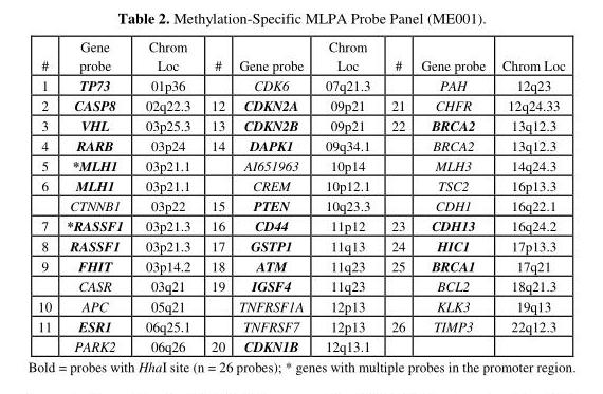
<table><thead><tr><td>#</td><td>Gene probe</td><td>Chrom Loc</td><td>#</td><td>Gene probe</td><td>Chrom Loc</td><td>#</td><td>Gene probe</td><td>Chrom Loc</td></tr></thead><tbody><tr><td>1</td><td>TP73</td><td>01p36</td><td></td><td>CDK6</td><td>07q21.3</td><td></td><td>PAH</td><td>12q23</td></tr><tr><td>2</td><td>CASP8</td><td>02q22.3</td><td>12</td><td>CDKN2A</td><td>09p21</td><td>21</td><td>CHFR</td><td>12q24.33</td></tr><tr><td>3</td><td>VHL</td><td>03p25.3</td><td>13</td><td>CDKN2B</td><td>09p21</td><td>22</td><td>BRCA2</td><td>13q12.3</td></tr><tr><td>4</td><td>RARB</td><td>03p24</td><td>14</td><td>DAPK1</td><td>09q34.1</td><td></td><td>BRCA2</td><td>13q12.3</td></tr><tr><td>5</td><td>*MLH1</td><td>03p21.1</td><td></td><td>AI651963</td><td>10p14</td><td></td><td>MLH3</td><td>14q24.3</td></tr><tr><td rowspan="2">6</td><td>MLH1</td><td>03p21.1</td><td></td><td>CREM</td><td>10p12.1</td><td></td><td>TSC2</td><td>16p13.3</td></tr><tr><td>CTNNB1</td><td>03p22</td><td>15</td><td>PTEN</td><td>10q23.3</td><td></td><td>CDH1</td><td>16q22.1</td></tr><tr><td>7</td><td>*RASSF1</td><td>03p21.3</td><td>16</td><td>CD44</td><td>11p12</td><td>23</td><td>CDH13</td><td>16q24.2</td></tr><tr><td>8</td><td>RASSF1</td><td>03p21.3</td><td>17</td><td>GSTP1</td><td>11q13</td><td>24</td><td>HIC1</td><td>17p13.3</td></tr><tr><td rowspan="2">9</td><td>FHIT</td><td>03p14.2</td><td>18</td><td>ATM</td><td>11q23</td><td>25</td><td>BRCA1</td><td>17q21</td></tr><tr><td>CASR</td><td>03q21</td><td>19</td><td>IGSF4</td><td>11q23</td><td></td><td>BCL2</td><td>18q21.3</td></tr><tr><td>10</td><td>APC</td><td>05q21</td><td></td><td>TNFRSF1A</td><td>12p13</td><td></td><td>KLK3</td><td>19q13</td></tr><tr><td rowspan="2">11</td><td>ESR1</td><td>06q25.1</td><td></td><td>TNFRSF7</td><td>12p13</td><td>26</td><td>TIMP3</td><td>22q12.3</td></tr><tr><td>PARK2</td><td>06q26</td><td>20</td><td>CDKN1B</td><td>12q13.1</td><td></td><td></td><td></td></tr></tbody></table>